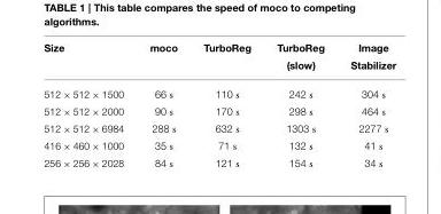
<table><thead><tr><td rowspan="2">Size</td><td rowspan="2">moco</td><td rowspan="2">TurboReg</td><td rowspan="2">TurboReg (slow)</td><td rowspan="2">Image Stabilizer</td></tr><tr></tr></thead><tbody><tr><td>512 × 512 × 1500</td><td>66 <sub>s</sub></td><td>110 <sub>s</sub></td><td>242 <sub>s</sub></td><td>304 <sub>s</sub></td></tr><tr><td>512 × 512 × 2000</td><td>90 <sub>s</sub></td><td>170 <sub>s</sub></td><td>298 <sub>s</sub></td><td>464 <sub>s</sub></td></tr><tr><td>512 × 512 × 6984</td><td>288 <sub>s</sub></td><td>632 <sub>s</sub></td><td>1303 <sub>s</sub></td><td>2277 <sub>s</sub></td></tr><tr><td>416 × 460 × 1000</td><td>35 <sub>s</sub></td><td>71 <sub>s</sub></td><td>132 <sub>s</sub></td><td>41 <sub>s</sub></td></tr><tr><td>256 × 256 × 2028</td><td>84 <sub>s</sub></td><td>121 <sub>s</sub></td><td>154 <sub>s</sub></td><td>34 <sub>s</sub></td></tr></tbody></table>